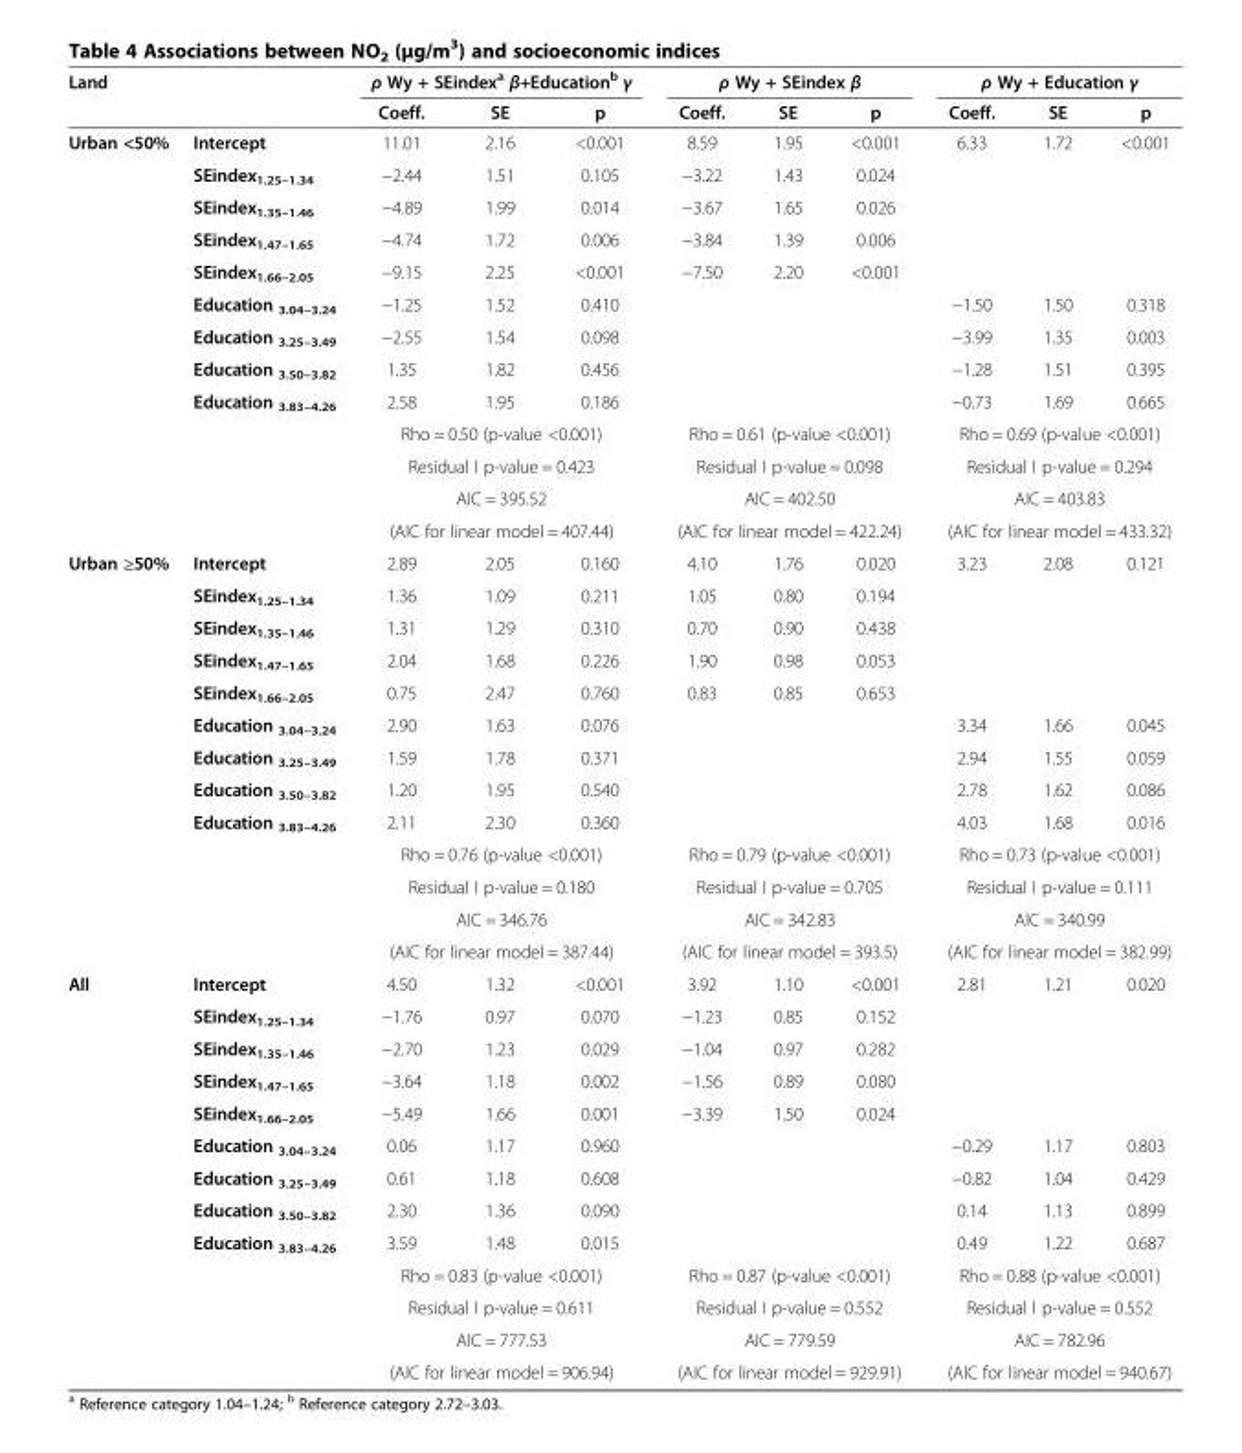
<table><thead><tr><td rowspan="2">Land</td><td rowspan="2"></td><td colspan="3">ρ Wy + SEindex<sup>a</sup> β+Education<sup>b</sup> γ</td><td colspan="3">ρ Wy + SEindex β</td><td colspan="3">ρ Wy + Education γ</td></tr><tr><td>Coeff.</td><td>SE</td><td>p</td><td>Coeff.</td><td>SE</td><td>p</td><td>Coeff.</td><td>SE</td><td>p</td></tr></thead><tbody><tr><td rowspan="13">Urban &lt;50%</td><td>Intercept</td><td>11.01</td><td>2.16</td><td>&lt;0.001</td><td>8.59</td><td>1.95</td><td>&lt;0.001</td><td>6.33</td><td>1.72</td><td>&lt;0.001</td></tr><tr><td>SEindex<sub>1.25–1.34</sub></td><td>−2.44</td><td>1.51</td><td>0.105</td><td>−3.22</td><td>1.43</td><td>0.024</td><td></td><td></td><td></td></tr><tr><td>SEindex<sub>1.35–1.46</sub></td><td>−4.89</td><td>1.99</td><td>0.014</td><td>−3.67</td><td>1.65</td><td>0.026</td><td></td><td></td><td></td></tr><tr><td>SEindex<sub>1.47–1.65</sub></td><td>−4.74</td><td>1.72</td><td>0.006</td><td>−3.84</td><td>1.39</td><td>0.006</td><td></td><td></td><td></td></tr><tr><td>SEindex<sub>1.66–2.05</sub></td><td>−9.15</td><td>2.25</td><td>&lt;0.001</td><td>−7.50</td><td>2.20</td><td>&lt;0.001</td><td></td><td></td><td></td></tr><tr><td>Education <sub>3.04–3.24</sub></td><td>−1.25</td><td>1.52</td><td>0.410</td><td></td><td></td><td></td><td>−1.50</td><td>1.50</td><td>0.318</td></tr><tr><td>Education <sub>3.25–3.49</sub></td><td>−2.55</td><td>1.54</td><td>0.098</td><td></td><td></td><td></td><td>−3.99</td><td>1.35</td><td>0.003</td></tr><tr><td>Education <sub>3.50–3.82</sub></td><td>1.35</td><td>1.82</td><td>0.456</td><td></td><td></td><td></td><td>−1.28</td><td>1.51</td><td>0.395</td></tr><tr><td>Education <sub>3.83–4.26</sub></td><td>2.58</td><td>1.95</td><td>0.186</td><td></td><td></td><td></td><td>−0.73</td><td>1.69</td><td>0.665</td></tr><tr><td></td><td colspan="3">Rho = 0.50 (p-value &lt;0.001)</td><td colspan="3">Rho = 0.61 (p-value &lt;0.001)</td><td colspan="3">Rho = 0.69 (p-value &lt;0.001)</td></tr><tr><td></td><td colspan="3">Residual I p-value = 0.423</td><td colspan="3">Residual I p-value = 0.098</td><td colspan="3">Residual I p-value = 0.294</td></tr><tr><td></td><td colspan="3">AIC = 395.52</td><td colspan="3">AIC = 402.50</td><td colspan="3">AIC = 403.83</td></tr><tr><td></td><td colspan="3">(AIC for linear model = 407.44)</td><td colspan="3">(AIC for linear model = 422.24)</td><td colspan="3">(AIC for linear model = 433.32)</td></tr><tr><td rowspan="13">Urban ≥50%</td><td>Intercept</td><td>2.89</td><td>2.05</td><td>0.160</td><td>4.10</td><td>1.76</td><td>0.020</td><td>3.23</td><td>2.08</td><td>0.121</td></tr><tr><td>SEindex<sub>1.25–1.34</sub></td><td>1.36</td><td>1.09</td><td>0.211</td><td>1.05</td><td>0.80</td><td>0.194</td><td></td><td></td><td></td></tr><tr><td>SEindex<sub>1.35–1.46</sub></td><td>1.31</td><td>1.29</td><td>0.310</td><td>0.70</td><td>0.90</td><td>0.438</td><td></td><td></td><td></td></tr><tr><td>SEindex<sub>1.47–1.65</sub></td><td>2.04</td><td>1.68</td><td>0.226</td><td>1.90</td><td>0.98</td><td>0.053</td><td></td><td></td><td></td></tr><tr><td>SEindex<sub>1.66–2.05</sub></td><td>0.75</td><td>2.47</td><td>0.760</td><td>0.83</td><td>0.85</td><td>0.653</td><td></td><td></td><td></td></tr><tr><td>Education <sub>3.04–3.24</sub></td><td>2.90</td><td>1.63</td><td>0.076</td><td></td><td></td><td></td><td>3.34</td><td>1.66</td><td>0.045</td></tr><tr><td>Education <sub>3.25–3.49</sub></td><td>1.59</td><td>1.78</td><td>0.371</td><td></td><td></td><td></td><td>2.94</td><td>1.55</td><td>0.059</td></tr><tr><td>Education <sub>3.50–3.82</sub></td><td>1.20</td><td>1.95</td><td>0.540</td><td></td><td></td><td></td><td>2.78</td><td>1.62</td><td>0.086</td></tr><tr><td>Education <sub>3.83–4.26</sub></td><td>2.11</td><td>2.30</td><td>0.360</td><td></td><td></td><td></td><td>4.03</td><td>1.68</td><td>0.016</td></tr><tr><td></td><td colspan="3">Rho = 0.76 (p-value &lt;0.001)</td><td colspan="3">Rho = 0.79 (p-value &lt;0.001)</td><td colspan="3">Rho = 0.73 (p-value &lt;0.001)</td></tr><tr><td></td><td colspan="3">Residual I p-value = 0.180</td><td colspan="3">Residual I p-value = 0.705</td><td colspan="3">Residual I p-value = 0.111</td></tr><tr><td></td><td colspan="3">AIC = 346.76</td><td colspan="3">AIC = 342.83</td><td colspan="3">AIC = 340.99</td></tr><tr><td></td><td colspan="3">(AIC for linear model = 387.44)</td><td colspan="3">(AIC for linear model = 393.5)</td><td colspan="3">(AIC for linear model = 382.99)</td></tr><tr><td rowspan="13">All</td><td>Intercept</td><td>4.50</td><td>1.32</td><td>&lt;0.001</td><td>3.92</td><td>1.10</td><td>&lt;0.001</td><td>2.81</td><td>1.21</td><td>0.020</td></tr><tr><td>SEindex<sub>1.25–1.34</sub></td><td>−1.76</td><td>0.97</td><td>0.070</td><td>−1.23</td><td>0.85</td><td>0.152</td><td></td><td></td><td></td></tr><tr><td>SEindex<sub>1.35–1.46</sub></td><td>−2.70</td><td>1.23</td><td>0.029</td><td>−1.04</td><td>0.97</td><td>0.282</td><td></td><td></td><td></td></tr><tr><td>SEindex<sub>1.47–1.65</sub></td><td>−3.64</td><td>1.18</td><td>0.002</td><td>−1.56</td><td>0.89</td><td>0.080</td><td></td><td></td><td></td></tr><tr><td>SEindex<sub>1.66–2.05</sub></td><td>−5.49</td><td>1.66</td><td>0.001</td><td>−3.39</td><td>1.50</td><td>0.024</td><td></td><td></td><td></td></tr><tr><td>Education <sub>3.04–3.24</sub></td><td>0.06</td><td>1.17</td><td>0.960</td><td></td><td></td><td></td><td>−0.29</td><td>1.17</td><td>0.803</td></tr><tr><td>Education <sub>3.25–3.49</sub></td><td>0.61</td><td>1.18</td><td>0.608</td><td></td><td></td><td></td><td>−0.82</td><td>1.04</td><td>0.429</td></tr><tr><td>Education <sub>3.50–3.82</sub></td><td>2.30</td><td>1.36</td><td>0.090</td><td></td><td></td><td></td><td>0.14</td><td>1.13</td><td>0.899</td></tr><tr><td>Education <sub>3.83–4.26</sub></td><td>3.59</td><td>1.48</td><td>0.015</td><td></td><td></td><td></td><td>0.49</td><td>1.22</td><td>0.687</td></tr><tr><td></td><td colspan="3">Rho = 0.83 (p-value &lt;0.001)</td><td colspan="3">Rho = 0.87 (p-value &lt;0.001)</td><td colspan="3">Rho = 0.88 (p-value &lt;0.001)</td></tr><tr><td></td><td colspan="3">Residual I p-value = 0.611</td><td colspan="3">Residual I p-value = 0.552</td><td colspan="3">Residual I p-value = 0.552</td></tr><tr><td></td><td colspan="3">AIC = 777.53</td><td colspan="3">AIC = 779.59</td><td colspan="3">AIC = 782.96</td></tr><tr><td></td><td colspan="3">(AIC for linear model = 906.94)</td><td colspan="3">(AIC for linear model = 929.91)</td><td colspan="3">(AIC for linear model = 940.67)</td></tr></tbody></table>